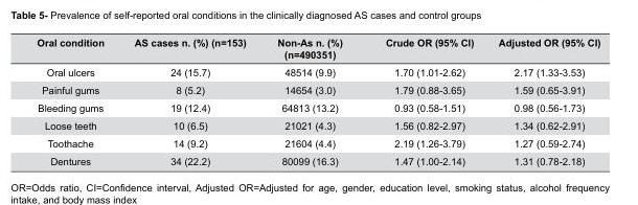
<table><thead><tr><td>Oral condition</td><td>AS cases n. (%) (n=153)</td><td>Non-As n. (%) (n=490351)</td><td>Crude OR (95% CI)</td><td>Adjusted OR (95% CI)</td></tr></thead><tbody><tr><td>Oral ulcers</td><td>24 (15.7)</td><td>48514 (9.9)</td><td>1.70 (1.01-2.62)</td><td>2.17 (1.33-3.53)</td></tr><tr><td>Painful gums</td><td>8 (5.2)</td><td>14654 (3.0)</td><td>1.79 (0.88-3.65)</td><td>1.59 (0.65-3.91)</td></tr><tr><td>Bleeding gums</td><td>19 (12.4)</td><td>64813 (13.2)</td><td>0.93 (0.58-1.51)</td><td>0.98 (0.56-1.73)</td></tr><tr><td>Loose teeth</td><td>10 (6.5)</td><td>21021 (4.3)</td><td>1.56 (0.82-2.97)</td><td>1.34 (0.62-2.91)</td></tr><tr><td>Toothache</td><td>14 (9.2)</td><td>21604 (4.4)</td><td>2.19 (1.26-3.79)</td><td>1.27 (0.59-2.74)</td></tr><tr><td>Dentures</td><td>34 (22.2)</td><td>80099 (16.3)</td><td>1.47 (1.00-2.14)</td><td>1.31 (0.78-2.18)</td></tr></tbody></table>